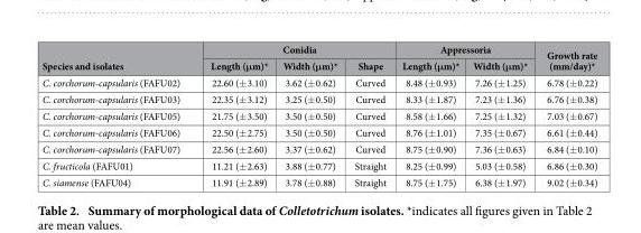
<table><thead><tr><td rowspan="2">Species and isolates</td><td colspan="3">Conidia</td><td colspan="2">Appressoria</td><td rowspan="2">Growth rate (mm/day)*</td></tr><tr><td>Length (μm)*</td><td>Width (μm)*</td><td>Shape</td><td>Length (μm)*</td><td>Width (μm)*</td></tr></thead><tbody><tr><td>C. corchorum-capsularis (FAFU02)</td><td>22.60 (± 3.10)</td><td>3.62 (± 0.62)</td><td>Curved</td><td>8.48 (± 0.93)</td><td>7.26 (± 1.25)</td><td>6.78 (± 0.22)</td></tr><tr><td>C. corchorum-capsularis (FAFU03)</td><td>22.35 (± 3.12)</td><td>3.25 (± 0.50)</td><td>Curved</td><td>8.33 (± 1.87)</td><td>7.23 (± 1.36)</td><td>6.76 (± 0.38)</td></tr><tr><td>C. corchorum-capsularis (FAFU05)</td><td>21.75 (± 3.50)</td><td>3.50 (± 0.50)</td><td>Curved</td><td>8.58 (± 1.66)</td><td>7.25 (± 1.32)</td><td>7.03 (± 0.67)</td></tr><tr><td>C. corchorum-capsularis (FAFU06)</td><td>22.50 (± 2.75)</td><td>3.50 (± 0.50)</td><td>Curved</td><td>8.76 (± 1.01)</td><td>7.35 (± 0.67)</td><td>6.61 (± 0.44)</td></tr><tr><td>C. corchorum-capsularis (FAFU07)</td><td>22.56 (± 2.60)</td><td>3.37 (± 0.62)</td><td>Curved</td><td>8.75 (± 0.90)</td><td>7.36 (± 0.63)</td><td>6.84 (± 0.10)</td></tr><tr><td>C. fructicola (FAFU01)</td><td>11.21 (± 2.63)</td><td>3.88 (± 0.77)</td><td>Straight</td><td>8.25 (± 0.99)</td><td>5.03 (± 0.58)</td><td>6.86 (± 0.30)</td></tr><tr><td>C. siamense (FAFU04)</td><td>11.91 (± 2.89)</td><td>3.78 (± 0.88)</td><td>Straight</td><td>8.75 (± 1.75)</td><td>6.38 (± 1.97)</td><td>9.02 (± 0.34)</td></tr></tbody></table>